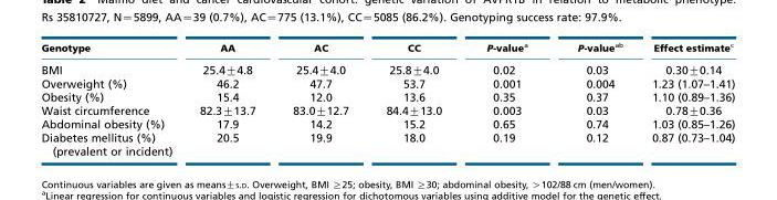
<table><thead><tr><td>Genotype</td><td>AA</td><td>AC</td><td>CC</td><td>P-value<sup>a</sup></td><td>P-value<sup>ab</sup></td><td>Effect estimate<sup>c</sup></td></tr></thead><tbody><tr><td>BMI</td><td>25.4±4.8</td><td>25.4±4.0</td><td>25.8±4.0</td><td>0.02</td><td>0.03</td><td>0.30±0.14</td></tr><tr><td>Overweight (%)</td><td>46.2</td><td>47.7</td><td>53.7</td><td>0.001</td><td>0.004</td><td>1.23 (1.07–1.41)</td></tr><tr><td>Obesity (%)</td><td>15.4</td><td>12.0</td><td>13.6</td><td>0.35</td><td>0.37</td><td>1.10 (0.89–1.36)</td></tr><tr><td>Waist circumference</td><td>82.3±13.7</td><td>83.0±12.7</td><td>84.4±13.0</td><td>0.003</td><td>0.03</td><td>0.78±0.36</td></tr><tr><td>Abdominal obesity (%)</td><td>17.9</td><td>14.2</td><td>15.2</td><td>0.65</td><td>0.74</td><td>1.03 (0.85–1.26)</td></tr><tr><td>Diabetes mellitus (%) (prevalent or incident)</td><td>20.5</td><td>19.9</td><td>18.0</td><td>0.19</td><td>0.12</td><td>0.87 (0.73–1.04)</td></tr></tbody></table>